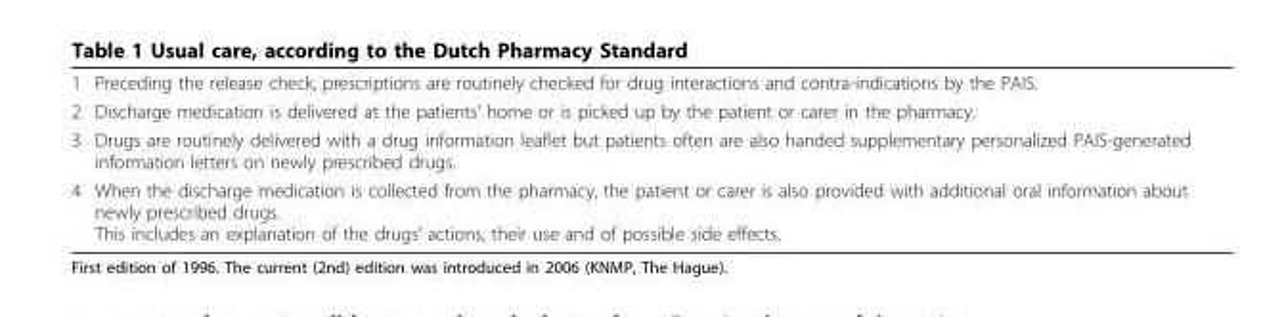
<table><tbody><tr><td>1</td><td>Preceding the release check, prescriptions are routinely checked for drug interactions and contra-indications by the PAIS.</td></tr><tr><td>2</td><td>Discharge medication is delivered at the patients’ home or is picked up by the patient or carer in the pharmacy.</td></tr><tr><td>3</td><td>Drugs are routinely delivered with a drug information leaflet but patients often are also handed supplementary personalized PAIS-generated information letters on newly prescribed drugs.</td></tr><tr><td>4</td><td>When the discharge medication is collected from the pharmacy, the patient or carer is also provided with additional oral information about newly prescribed drugs. This includes an explanation of the drugs’ actions, their use and of possible side effects.</td></tr></tbody></table>